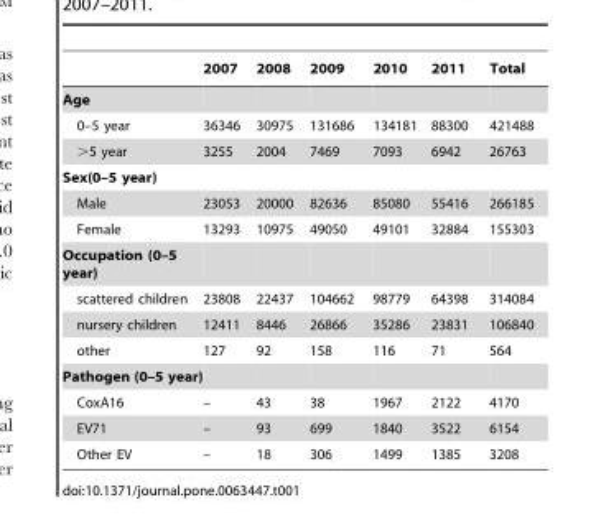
<table><thead><tr><td></td><td>2007</td><td>2008</td><td>2009</td><td>2010</td><td>2011</td><td>Total</td></tr></thead><tbody><tr><td colspan="7">Age</td></tr><tr><td>0–5 year</td><td>36346</td><td>30975</td><td>131686</td><td>134181</td><td>88300</td><td>421488</td></tr><tr><td>&gt;5 year</td><td>3255</td><td>2004</td><td>7469</td><td>7093</td><td>6942</td><td>26763</td></tr><tr><td colspan="7">Sex(0–5 year)</td></tr><tr><td>Male</td><td>23053</td><td>20000</td><td>82636</td><td>85080</td><td>55416</td><td>266185</td></tr><tr><td>Female</td><td>13293</td><td>10975</td><td>49050</td><td>49101</td><td>32884</td><td>155303</td></tr><tr><td colspan="7">Occupation (0–5 year)</td></tr><tr><td>scattered children</td><td>23808</td><td>22437</td><td>104662</td><td>98779</td><td>64398</td><td>314084</td></tr><tr><td>nursery children</td><td>12411</td><td>8446</td><td>26866</td><td>35286</td><td>23831</td><td>106840</td></tr><tr><td>other</td><td>127</td><td>92</td><td>158</td><td>116</td><td>71</td><td>564</td></tr><tr><td colspan="7">Pathogen (0–5 year)</td></tr><tr><td>CoxA16</td><td>–</td><td>43</td><td>38</td><td>1967</td><td>2122</td><td>4170</td></tr><tr><td>EV71</td><td>–</td><td>93</td><td>699</td><td>1840</td><td>3522</td><td>6154</td></tr><tr><td>Other EV</td><td>–</td><td>18</td><td>306</td><td>1499</td><td>1385</td><td>3208</td></tr></tbody></table>